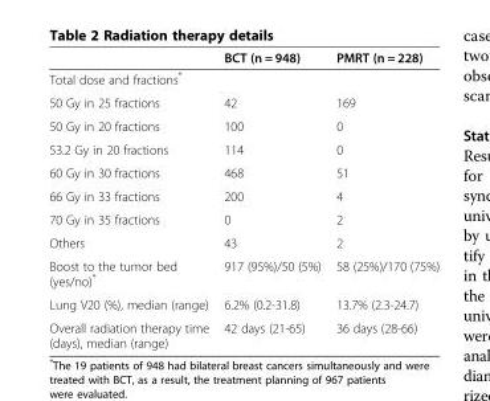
<table><thead><tr><td></td><td>BCT (n = 948)</td><td>PMRT (n = 228)</td></tr></thead><tbody><tr><td colspan="3">Total dose and fractions*</td></tr><tr><td>50 Gy in 25 fractions</td><td>42</td><td>169</td></tr><tr><td>50 Gy in 20 fractions</td><td>100</td><td>0</td></tr><tr><td>53.2 Gy in 20 fractions</td><td>114</td><td>0</td></tr><tr><td>60 Gy in 30 fractions</td><td>468</td><td>51</td></tr><tr><td>66 Gy in 33 fractions</td><td>200</td><td>4</td></tr><tr><td>70 Gy in 35 fractions</td><td>0</td><td>2</td></tr><tr><td>Others</td><td>43</td><td>2</td></tr><tr><td>Boost to the tumor bed (yes/no)*</td><td>917 (95%)/50 (5%)</td><td>58 (25%)/170 (75%)</td></tr><tr><td>Lung V20 (%), median (range)</td><td>6.2% (0.2-31.8)</td><td>13.7% (2.3-24.7)</td></tr><tr><td>Overall radiation therapy time (days), median (range)</td><td>42 days (21-65)</td><td>36 days (28-66)</td></tr></tbody></table>